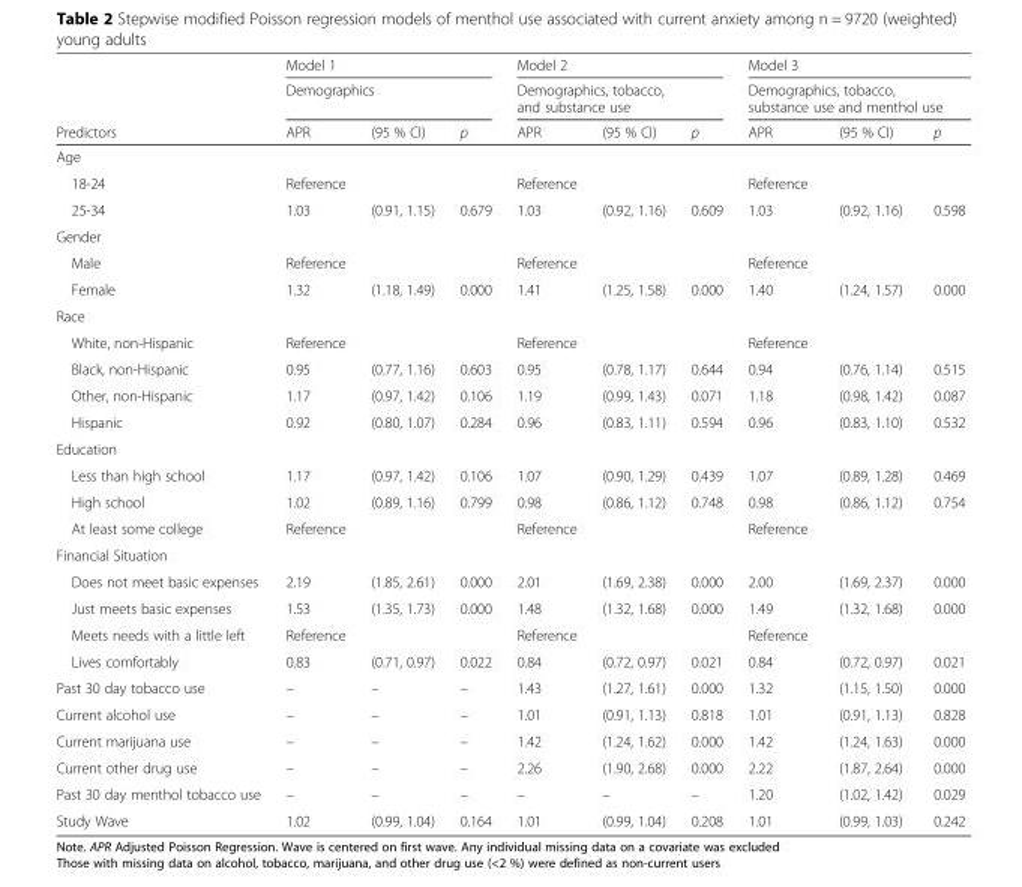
<table><thead><tr><td rowspan="3">Predictors</td><td rowspan="2" colspan="3">Model 1 Demographics</td><td rowspan="2" colspan="3">Model 2 Demographics, tobacco, and substance use</td><td rowspan="2" colspan="3">Model 3 Demographics, tobacco, substance use and menthol use</td></tr><tr></tr><tr><td>APR</td><td>(95 % CI)</td><td>p</td><td>APR</td><td>(95 % CI)</td><td>p</td><td>APR</td><td>(95 % CI)</td><td>p</td></tr></thead><tbody><tr><td colspan="10">Age</td></tr><tr><td>18-24</td><td>Reference</td><td></td><td></td><td>Reference</td><td></td><td></td><td>Reference</td><td></td><td></td></tr><tr><td>25-34</td><td>1.03</td><td>(0.91, 1.15)</td><td>0.679</td><td>1.03</td><td>(0.92, 1.16)</td><td>0.609</td><td>1.03</td><td>(0.92, 1.16)</td><td>0.598</td></tr><tr><td colspan="10">Gender</td></tr><tr><td>Male</td><td>Reference</td><td></td><td></td><td>Reference</td><td></td><td></td><td>Reference</td><td></td><td></td></tr><tr><td>Female</td><td>1.32</td><td>(1.18, 1.49)</td><td>0.000</td><td>1.41</td><td>(1.25, 1.58)</td><td>0.000</td><td>1.40</td><td>(1.24, 1.57)</td><td>0.000</td></tr><tr><td colspan="10">Race</td></tr><tr><td>White, non-Hispanic</td><td>Reference</td><td></td><td></td><td>Reference</td><td></td><td></td><td>Reference</td><td></td><td></td></tr><tr><td>Black, non-Hispanic</td><td>0.95</td><td>(0.77, 1.16)</td><td>0.603</td><td>0.95</td><td>(0.78, 1.17)</td><td>0.644</td><td>0.94</td><td>(0.76, 1.14)</td><td>0.515</td></tr><tr><td>Other, non-Hispanic</td><td>1.17</td><td>(0.97, 1.42)</td><td>0.106</td><td>1.19</td><td>(0.99, 1.43)</td><td>0.071</td><td>1.18</td><td>(0.98, 1.42)</td><td>0.087</td></tr><tr><td>Hispanic</td><td>0.92</td><td>(0.80, 1.07)</td><td>0.284</td><td>0.96</td><td>(0.83, 1.11)</td><td>0.594</td><td>0.96</td><td>(0.83, 1.10)</td><td>0.532</td></tr><tr><td colspan="10">Education</td></tr><tr><td>Less than high school</td><td>1.17</td><td>(0.97, 1.42)</td><td>0.106</td><td>1.07</td><td>(0.90, 1.29)</td><td>0.439</td><td>1.07</td><td>(0.89, 1.28)</td><td>0.469</td></tr><tr><td>High school</td><td>1.02</td><td>(0.89, 1.16)</td><td>0.799</td><td>0.98</td><td>(0.86, 1.12)</td><td>0.748</td><td>0.98</td><td>(0.86, 1.12)</td><td>0.754</td></tr><tr><td>At least some college</td><td>Reference</td><td></td><td></td><td>Reference</td><td></td><td></td><td>Reference</td><td></td><td></td></tr><tr><td colspan="10">Financial Situation</td></tr><tr><td>Does not meet basic expenses</td><td>2.19</td><td>(1.85, 2.61)</td><td>0.000</td><td>2.01</td><td>(1.69, 2.38)</td><td>0.000</td><td>2.00</td><td>(1.69, 2.37)</td><td>0.000</td></tr><tr><td>Just meets basic expenses</td><td>1.53</td><td>(1.35, 1.73)</td><td>0.000</td><td>1.48</td><td>(1.32, 1.68)</td><td>0.000</td><td>1.49</td><td>(1.32, 1.68)</td><td>0.000</td></tr><tr><td>Meets needs with a little left</td><td>Reference</td><td></td><td></td><td>Reference</td><td></td><td></td><td>Reference</td><td></td><td></td></tr><tr><td>Lives comfortably</td><td>0.83</td><td>(0.71, 0.97)</td><td>0.022</td><td>0.84</td><td>(0.72, 0.97)</td><td>0.021</td><td>0.84</td><td>(0.72, 0.97)</td><td>0.021</td></tr><tr><td>Past 30 day tobacco use</td><td>–</td><td>–</td><td>–</td><td>1.43</td><td>(1.27, 1.61)</td><td>0.000</td><td>1.32</td><td>(1.15, 1.50)</td><td>0.000</td></tr><tr><td>Current alcohol use</td><td>–</td><td>–</td><td>–</td><td>1.01</td><td>(0.91, 1.13)</td><td>0.818</td><td>1.01</td><td>(0.91, 1.13)</td><td>0.828</td></tr><tr><td>Current marijuana use</td><td>–</td><td>–</td><td>–</td><td>1.42</td><td>(1.24, 1.62)</td><td>0.000</td><td>1.42</td><td>(1.24, 1.63)</td><td>0.000</td></tr><tr><td>Current other drug use</td><td>–</td><td>–</td><td>–</td><td>2.26</td><td>(1.90, 2.68)</td><td>0.000</td><td>2.22</td><td>(1.87, 2.64)</td><td>0.000</td></tr><tr><td>Past 30 day menthol tobacco use</td><td>–</td><td>–</td><td>–</td><td>–</td><td>–</td><td>–</td><td>1.20</td><td>(1.02, 1.42)</td><td>0.029</td></tr><tr><td>Study Wave</td><td>1.02</td><td>(0.99, 1.04)</td><td>0.164</td><td>1.01</td><td>(0.99, 1.04)</td><td>0.208</td><td>1.01</td><td>(0.99, 1.03)</td><td>0.242</td></tr></tbody></table>